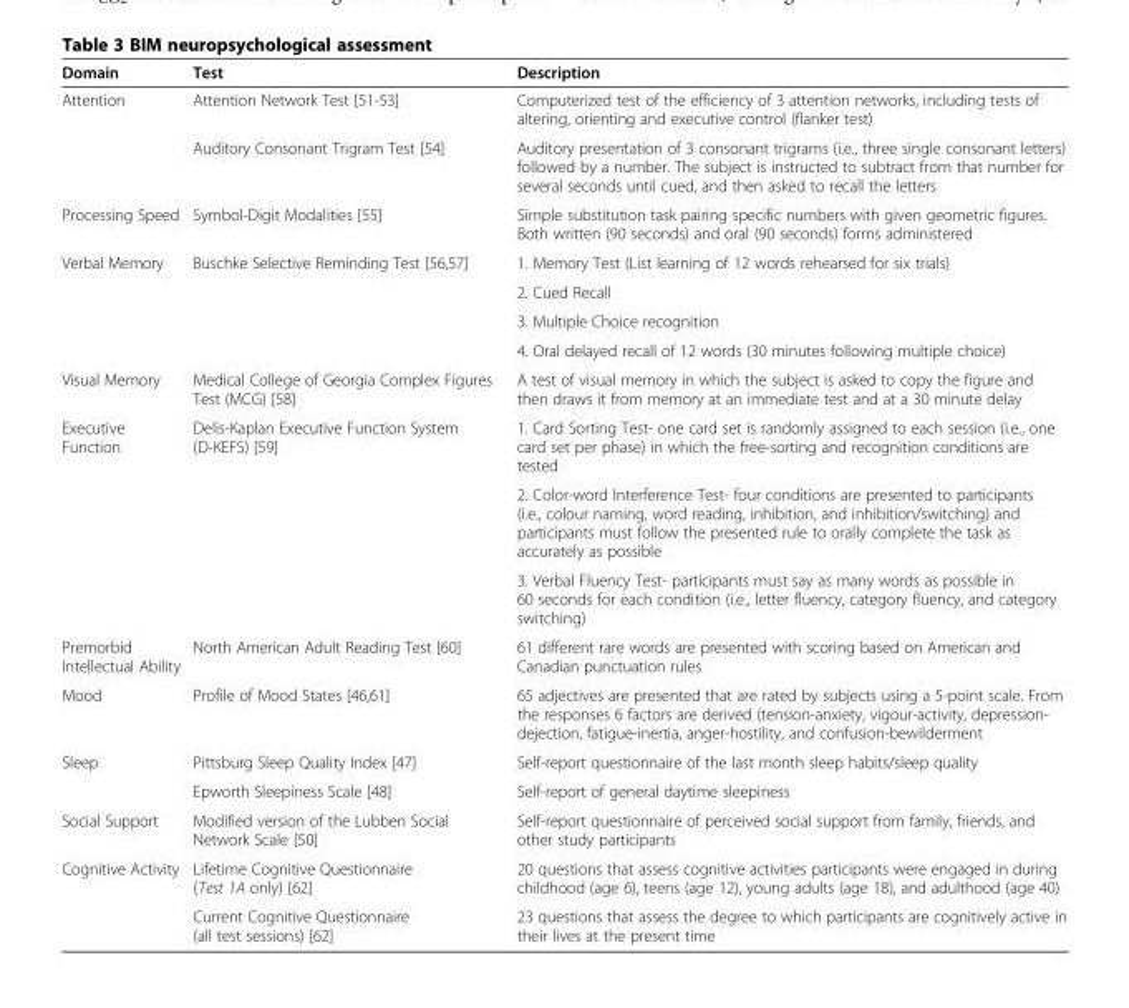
<table><thead><tr><td>Domain</td><td>Test</td><td>Description</td></tr></thead><tbody><tr><td rowspan="2">Attention</td><td>Attention Network Test [51-53]</td><td>Computerized test of the efficiency of 3 attention networks, including tests of altering, orienting and executive control (flanker test)</td></tr><tr><td>Auditory Consonant Trigram Test [54]</td><td>Auditory presentation of 3 consonant trigrams (i.e., three single consonant letters) followed by a number. The subject is instructed to subtract from that number for several seconds until cued, and then asked to recall the letters</td></tr><tr><td>Processing Speed</td><td>Symbol-Digit Modalities [55]</td><td>Simple substitution task pairing specific numbers with given geometric figures. Both written (90 seconds) and oral (90 seconds) forms administered</td></tr><tr><td rowspan="4">Verbal Memory</td><td rowspan="4">Buschke Selective Reminding Test [56,57]</td><td>1. Memory Test (List learning of 12 words rehearsed for six trials)</td></tr><tr><td>2. Cued Recall</td></tr><tr><td>3. Multiple Choice recognition</td></tr><tr><td>4. Oral delayed recall of 12 words (30 minutes following multiple choice)</td></tr><tr><td>Visual Memory</td><td>Medical College of Georgia Complex Figures Test (MCG) [58]</td><td>A test of visual memory in which the subject is asked to copy the figure and then draws it from memory at an immediate test and at a 30 minute delay</td></tr><tr><td rowspan="3">Executive Function</td><td rowspan="3">Delis-Kaplan Executive Function System (D-KEFS) [59]</td><td>1. Card Sorting Test- one card set is randomly assigned to each session (i.e., one card set per phase) in which the free-sorting and recognition conditions are tested</td></tr><tr><td>2. Color-word Interference Test- four conditions are presented to participants (i.e., colour naming, word reading, inhibition, and inhibition/switching) and participants must follow the presented rule to orally complete the task as accurately as possible</td></tr><tr><td>3. Verbal Fluency Test- participants must say as many words as possible in 60 seconds for each condition (i.e., letter fluency, category fluency, and category switching)</td></tr><tr><td>Premorbid Intellectual Ability</td><td>North American Adult Reading Test [60]</td><td>61 different rare words are presented with scoring based on American and Canadian punctuation rules</td></tr><tr><td>Mood</td><td>Profile of Mood States [46,61]</td><td>65 adjectives are presented that are rated by subjects using a 5-point scale. From the responses 6 factors are derived (tension-anxiety, vigour-activity, depression- dejection, fatigue-inertia, anger-hostility, and confusion-bewilderment</td></tr><tr><td rowspan="2">Sleep</td><td>Pittsburg Sleep Quality Index [47]</td><td>Self-report questionnaire of the last month sleep habits/sleep quality</td></tr><tr><td>Epworth Sleepiness Scale [48]</td><td>Self-report of general daytime sleepiness</td></tr><tr><td>Social Support</td><td>Modified version of the Lubben Social Network Scale [50]</td><td>Self-report questionnaire of perceived social support from family, friends, and other study participants</td></tr><tr><td rowspan="2">Cognitive Activity</td><td>Lifetime Cognitive Questionnaire (Test 1A only) [62]</td><td>20 questions that assess cognitive activities participants were engaged in during childhood (age 6), teens (age 12), young adults (age 18), and adulthood (age 40)</td></tr><tr><td>Current Cognitive Questionnaire (all test sessions) [62]</td><td>23 questions that assess the degree to which participants are cognitively active in their lives at the present time</td></tr></tbody></table>